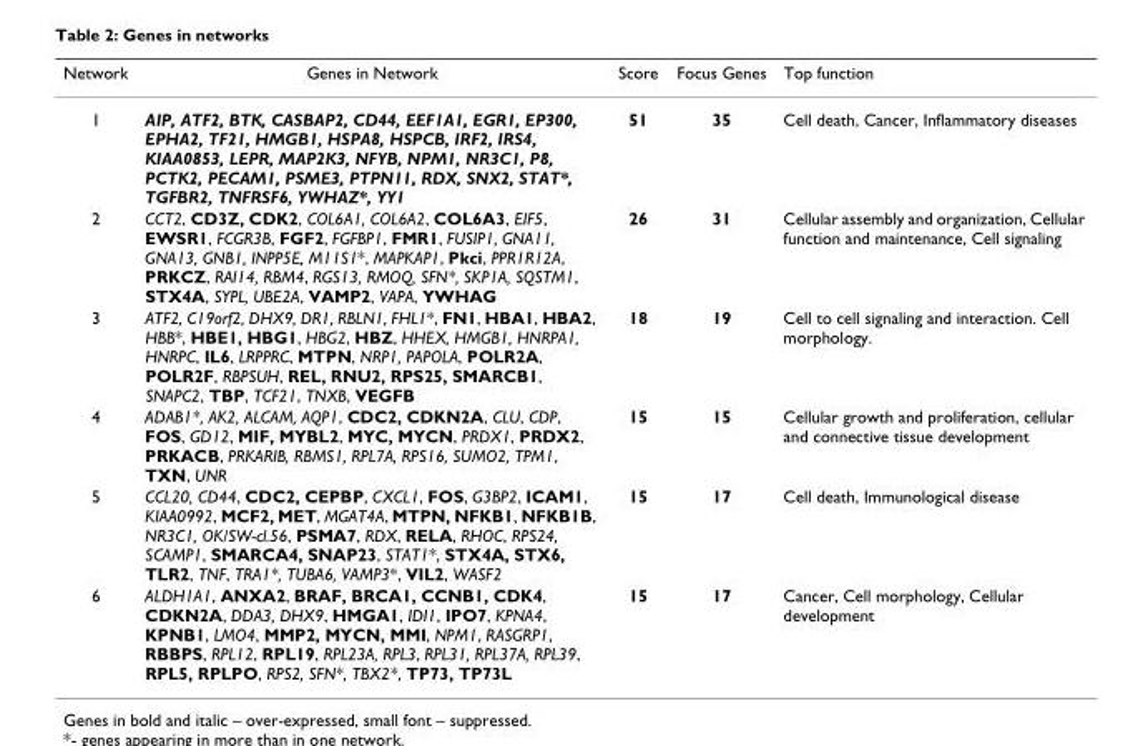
<table><thead><tr><td>Network</td><td>Genes in Network</td><td>Score</td><td>Focus Genes</td><td>Top function</td></tr></thead><tbody><tr><td>1</td><td>AIP, ATF2, BTK, CASBAP2, CD44, EEF1A1, EGR1, EP300, EPHA2, TF21, HMGB1, HSPA8, HSPCB, IRF2, IRS4, KIAA0853, LEPR, MAP2K3, NFYB, NPM1, NR3C1, P8, PCTK2, PECAM1, PSME3, PTPN11, RDX, SNX2, STAT*, TGFBR2, TNFRSF6, YWHAZ*, YY1</td><td>51</td><td>35</td><td>Cell death, Cancer, Inflammatory diseases</td></tr><tr><td>2</td><td>CCT2, CD3Z, CDK2, COL6A1, COL6A2, COL6A3, EIF5, EWSR1, FCGR3B, FGF2, FGFBP1, FMR1, FUSIP1, GNA11, GNA13, GNB1, INPP5E, M11S1*, MAPKAP1, Pkci, PPR1R12A, PRKCZ, RAI14, RBM4, RGS13, RMOQ, SFN*, SKP1A, SQSTM1, STX4A, SYPL, UBE2A, VAMP2, VAPA, YWHAG</td><td>26</td><td>31</td><td>Cellular assembly and organization, Cellular function and maintenance, Cell signaling</td></tr><tr><td>3</td><td>ATF2, C19orf2, DHX9, DR1, RBLN1, FHL1*, FN1, HBA1, HBA2, HBB*, HBE1, HBG1, HBG2, HBZ, HHEX, HMGB1, HNRPA1, HNRPC, IL6, LRPPRC, MTPN, NRP1, PAPOLA, POLR2A, POLR2F, RBPSUH, REL, RNU2, RPS25, SMARCB1, SNAPC2, TBP, TCF21, TNXB, VEGFB</td><td>18</td><td>19</td><td>Cell to cell signaling and interaction. Cell morphology.</td></tr><tr><td>4</td><td>ADAB1*, AK2, ALCAM, AQP1, CDC2, CDKN2A, CLU, CDP, FOS, GD12, MIF, MYBL2, MYC, MYCN, PRDX1, PRDX2, PRKACB, PRKARIB, RBMS1, RPL7A, RPS16, SUMO2, TPM1, TXN, UNR</td><td>15</td><td>15</td><td>Cellular growth and proliferation, cellular and connective tissue development</td></tr><tr><td>5</td><td>CCL20, CD44, CDC2, CEPBP, CXCL1, FOS, G3BP2, ICAM1, KIAA0992, MCF2, MET, MGAT4A, MTPN, NFKB1, NFKB1B, NR3C1, OK/SW-cl.56, PSMA7, RDX, RELA, RHOC, RPS24, SCAMP1, SMARCA4, SNAP23, STAT1*, STX4A, STX6, TLR2, TNF, TRA1*, TUBA6, VAMP3*, VIL2, WASF2</td><td>15</td><td>17</td><td>Cell death, Immunological disease</td></tr><tr><td>6</td><td>ALDH1A1, ANXA2, BRAF, BRCA1, CCNB1, CDK4, CDKN2A, DDA3, DHX9, HMGA1, IDI1, IPO7, KPNA4, KPNB1, LMO4, MMP2, MYCN, MMI, NPM1, RASGRP1, RBBPS, RPL12, RPL19, RPL23A, RPL3, RPL31, RPL37A, RPL39, RPL5, RPLPO, RPS2, SFN*, TBX2*, TP73, TP73L</td><td>15</td><td>17</td><td>Cancer, Cell morphology, Cellular development</td></tr></tbody></table>